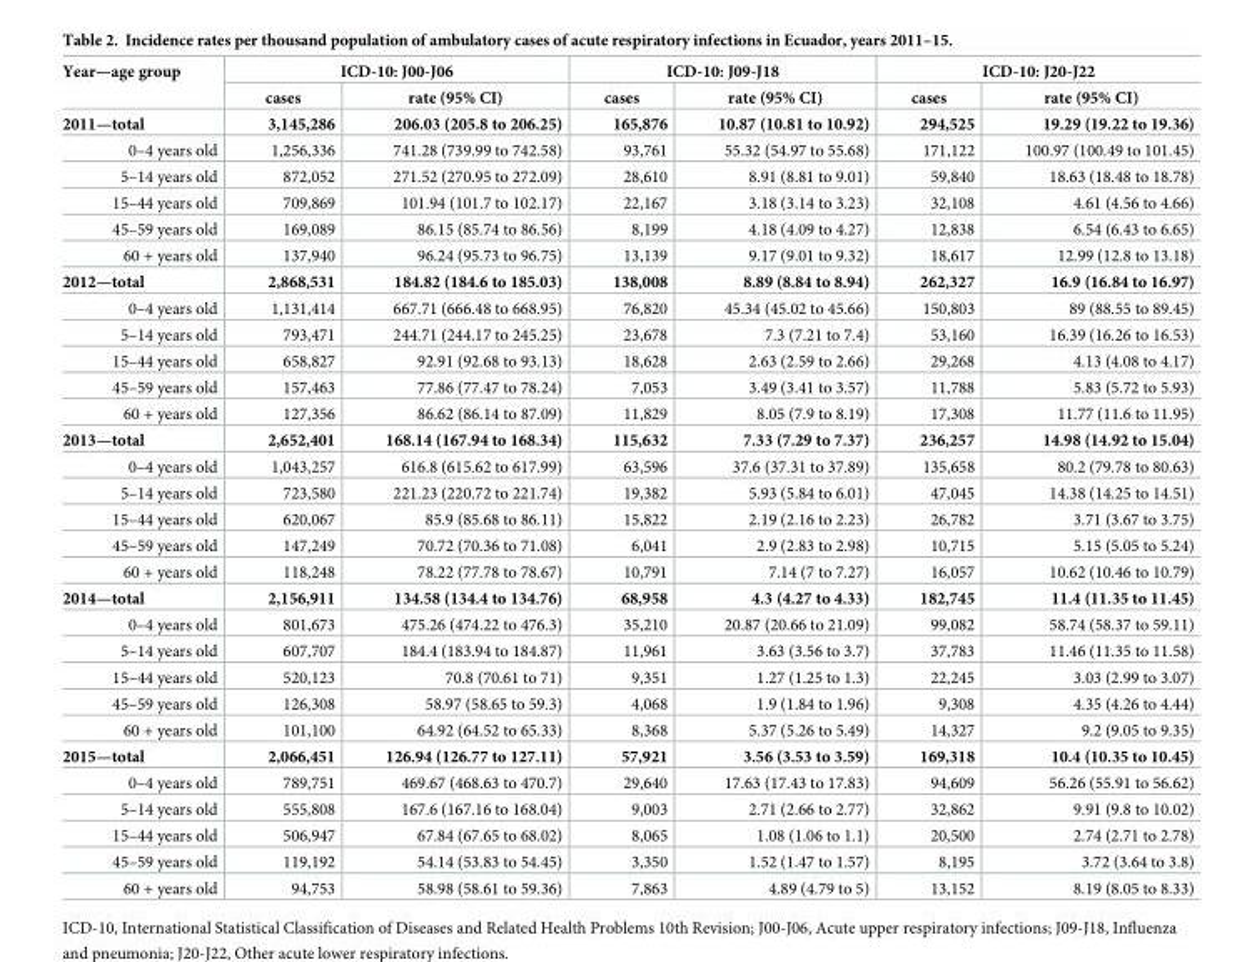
<table><thead><tr><td rowspan="2">Year—age group</td><td colspan="2">ICD-10: J00-J06</td><td colspan="2">ICD-10: J09-J18</td><td colspan="2">ICD-10: J20-J22</td></tr><tr><td>cases</td><td>rate (95% CI)</td><td>cases</td><td>rate (95% CI)</td><td>cases</td><td>rate (95% CI)</td></tr></thead><tbody><tr><td>2011—total</td><td>3,145,286</td><td>206.03 (205.8 to 206.25)</td><td>165,876</td><td>10.87 (10.81 to 10.92)</td><td>294,525</td><td>19.29 (19.22 to 19.36)</td></tr><tr><td>0–4 years old</td><td>1,256,336</td><td>741.28 (739.99 to 742.58)</td><td>93,761</td><td>55.32 (54.97 to 55.68)</td><td>171,122</td><td>100.97 (100.49 to 101.45)</td></tr><tr><td>5–14 years old</td><td>872,052</td><td>271.52 (270.95 to 272.09)</td><td>28,610</td><td>8.91 (8.81 to 9.01)</td><td>59,840</td><td>18.63 (18.48 to 18.78)</td></tr><tr><td>15–44 years old</td><td>709,869</td><td>101.94 (101.7 to 102.17)</td><td>22,167</td><td>3.18 (3.14 to 3.23)</td><td>32,108</td><td>4.61 (4.56 to 4.66)</td></tr><tr><td>45–59 years old</td><td>169,089</td><td>86.15 (85.74 to 86.56)</td><td>8,199</td><td>4.18 (4.09 to 4.27)</td><td>12,838</td><td>6.54 (6.43 to 6.65)</td></tr><tr><td>60 + years old</td><td>137,940</td><td>96.24 (95.73 to 96.75)</td><td>13,139</td><td>9.17 (9.01 to 9.32)</td><td>18,617</td><td>12.99 (12.8 to 13.18)</td></tr><tr><td>2012—total</td><td>2,868,531</td><td>184.82 (184.6 to 185.03)</td><td>138,008</td><td>8.89 (8.84 to 8.94)</td><td>262,327</td><td>16.9 (16.84 to 16.97)</td></tr><tr><td>0–4 years old</td><td>1,131,414</td><td>667.71 (666.48 to 668.95)</td><td>76,820</td><td>45.34 (45.02 to 45.66)</td><td>150,803</td><td>89 (88.55 to 89.45)</td></tr><tr><td>5–14 years old</td><td>793,471</td><td>244.71 (244.17 to 245.25)</td><td>23,678</td><td>7.3 (7.21 to 7.4)</td><td>53,160</td><td>16.39 (16.26 to 16.53)</td></tr><tr><td>15–44 years old</td><td>658,827</td><td>92.91 (92.68 to 93.13)</td><td>18,628</td><td>2.63 (2.59 to 2.66)</td><td>29,268</td><td>4.13 (4.08 to 4.17)</td></tr><tr><td>45–59 years old</td><td>157,463</td><td>77.86 (77.47 to 78.24)</td><td>7,053</td><td>3.49 (3.41 to 3.57)</td><td>11,788</td><td>5.83 (5.72 to 5.93)</td></tr><tr><td>60 + years old</td><td>127,356</td><td>86.62 (86.14 to 87.09)</td><td>11,829</td><td>8.05 (7.9 to 8.19)</td><td>17,308</td><td>11.77 (11.6 to 11.95)</td></tr><tr><td>2013—total</td><td>2,652,401</td><td>168.14 (167.94 to 168.34)</td><td>115,632</td><td>7.33 (7.29 to 7.37)</td><td>236,257</td><td>14.98 (14.92 to 15.04)</td></tr><tr><td>0–4 years old</td><td>1,043,257</td><td>616.8 (615.62 to 617.99)</td><td>63,596</td><td>37.6 (37.31 to 37.89)</td><td>135,658</td><td>80.2 (79.78 to 80.63)</td></tr><tr><td>5–14 years old</td><td>723,580</td><td>221.23 (220.72 to 221.74)</td><td>19,382</td><td>5.93 (5.84 to 6.01)</td><td>47,045</td><td>14.38 (14.25 to 14.51)</td></tr><tr><td>15–44 years old</td><td>620,067</td><td>85.9 (85.68 to 86.11)</td><td>15,822</td><td>2.19 (2.16 to 2.23)</td><td>26,782</td><td>3.71 (3.67 to 3.75)</td></tr><tr><td>45–59 years old</td><td>147,249</td><td>70.72 (70.36 to 71.08)</td><td>6,041</td><td>2.9 (2.83 to 2.98)</td><td>10,715</td><td>5.15 (5.05 to 5.24)</td></tr><tr><td>60 + years old</td><td>118,248</td><td>78.22 (77.78 to 78.67)</td><td>10,791</td><td>7.14 (7 to 7.27)</td><td>16,057</td><td>10.62 (10.46 to 10.79)</td></tr><tr><td>2014—total</td><td>2,156,911</td><td>134.58 (134.4 to 134.76)</td><td>68,958</td><td>4.3 (4.27 to 4.33)</td><td>182,745</td><td>11.4 (11.35 to 11.45)</td></tr><tr><td>0–4 years old</td><td>801,673</td><td>475.26 (474.22 to 476.3)</td><td>35,210</td><td>20.87 (20.66 to 21.09)</td><td>99,082</td><td>58.74 (58.37 to 59.11)</td></tr><tr><td>5–14 years old</td><td>607,707</td><td>184.4 (183.94 to 184.87)</td><td>11,961</td><td>3.63 (3.56 to 3.7)</td><td>37,783</td><td>11.46 (11.35 to 11.58)</td></tr><tr><td>15–44 years old</td><td>520,123</td><td>70.8 (70.61 to 71)</td><td>9,351</td><td>1.27 (1.25 to 1.3)</td><td>22,245</td><td>3.03 (2.99 to 3.07)</td></tr><tr><td>45–59 years old</td><td>126,308</td><td>58.97 (58.65 to 59.3)</td><td>4,068</td><td>1.9 (1.84 to 1.96)</td><td>9,308</td><td>4.35 (4.26 to 4.44)</td></tr><tr><td>60 + years old</td><td>101,100</td><td>64.92 (64.52 to 65.33)</td><td>8,368</td><td>5.37 (5.26 to 5.49)</td><td>14,327</td><td>9.2 (9.05 to 9.35)</td></tr><tr><td>2015—total</td><td>2,066,451</td><td>126.94 (126.77 to 127.11)</td><td>57,921</td><td>3.56 (3.53 to 3.59)</td><td>169,318</td><td>10.4 (10.35 to 10.45)</td></tr><tr><td>0–4 years old</td><td>789,751</td><td>469.67 (468.63 to 470.7)</td><td>29,640</td><td>17.63 (17.43 to 17.83)</td><td>94,609</td><td>56.26 (55.91 to 56.62)</td></tr><tr><td>5–14 years old</td><td>555,808</td><td>167.6 (167.16 to 168.04)</td><td>9,003</td><td>2.71 (2.66 to 2.77)</td><td>32,862</td><td>9.91 (9.8 to 10.02)</td></tr><tr><td>15–44 years old</td><td>506,947</td><td>67.84 (67.65 to 68.02)</td><td>8,065</td><td>1.08 (1.06 to 1.1)</td><td>20,500</td><td>2.74 (2.71 to 2.78)</td></tr><tr><td>45–59 years old</td><td>119,192</td><td>54.14 (53.83 to 54.45)</td><td>3,350</td><td>1.52 (1.47 to 1.57)</td><td>8,195</td><td>3.72 (3.64 to 3.8)</td></tr><tr><td>60 + years old</td><td>94,753</td><td>58.98 (58.61 to 59.36)</td><td>7,863</td><td>4.89 (4.79 to 5)</td><td>13,152</td><td>8.19 (8.05 to 8.33)</td></tr></tbody></table>